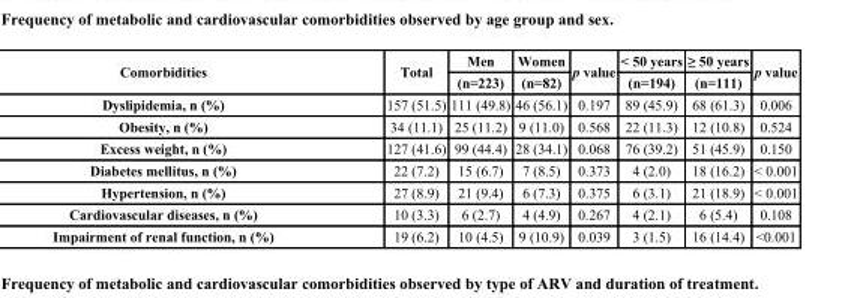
<table><thead><tr><td rowspan="2">Comorbidities</td><td rowspan="2">Total</td><td rowspan="2">Men (n=223)</td><td rowspan="2">Women (n=82)</td><td rowspan="2">p value</td><td rowspan="2">&lt; 50 years (n=194)</td><td rowspan="2">≥ 50 years (n=111)</td><td rowspan="2">p value</td></tr><tr></tr></thead><tbody><tr><td>Dyslipidemia, n (%)</td><td>157 (51.5)</td><td>111 (49.8)</td><td>46 (56.1)</td><td>0.197</td><td>89 (45.9)</td><td>68 (61.3)</td><td>0.006</td></tr><tr><td>Obesity, n (%)</td><td>34 (11.1)</td><td>25 (11.2)</td><td>9 (11.0)</td><td>0.568</td><td>22 (11.3)</td><td>12 (10.8)</td><td>0.524</td></tr><tr><td>Excess weight, n (%)</td><td>127 (41.6)</td><td>99 (44.4)</td><td>28 (34.1)</td><td>0.068</td><td>76 (39.2)</td><td>51 (45.9)</td><td>0.150</td></tr><tr><td>Diabetes mellitus, n (%)</td><td>22 (7.2)</td><td>15 (6.7)</td><td>7 (8.5)</td><td>0.373</td><td>4 (2.0)</td><td>18 (16.2)</td><td>&lt; 0.001</td></tr><tr><td>Hypertension, n (%)</td><td>27 (8.9)</td><td>21 (9.4)</td><td>6 (7.3)</td><td>0.375</td><td>6 (3.1)</td><td>21 (18.9)</td><td>&lt; 0.001</td></tr><tr><td>Cardiovascular diseases, n (%)</td><td>10 (3.3)</td><td>6 (2.7)</td><td>4 (4.9)</td><td>0.267</td><td>4 (2.1)</td><td>6 (5.4)</td><td>0.108</td></tr><tr><td>Impairment of renal function, n (%)</td><td>19 (6.2)</td><td>10 (4.5)</td><td>9 (10.9)</td><td>0.039</td><td>3 (1.5)</td><td>16 (14.4)</td><td>&lt;0.001</td></tr></tbody></table>